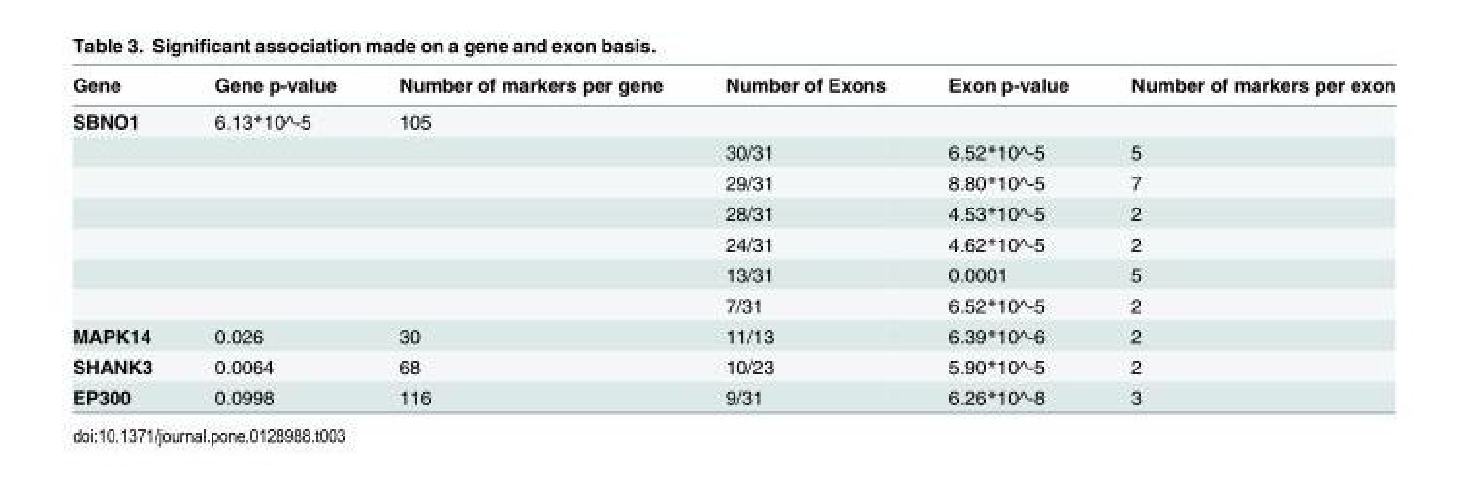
<table><thead><tr><td>Gene</td><td>Gene p-value</td><td>Number of markers per gene</td><td>Number of Exons</td><td>Exon p-value</td><td>Number of markers per exon</td></tr></thead><tbody><tr><td rowspan="7">SBNO1</td><td>6.13*10^-5</td><td>105</td><td></td><td></td><td></td></tr><tr><td></td><td></td><td>30/31</td><td>6.52*10^-5</td><td>5</td></tr><tr><td></td><td></td><td>29/31</td><td>8.80*10^-5</td><td>7</td></tr><tr><td></td><td></td><td>28/31</td><td>4.53*10^-5</td><td>2</td></tr><tr><td></td><td></td><td>24/31</td><td>4.62*10^-5</td><td>2</td></tr><tr><td></td><td></td><td>13/31</td><td>0.0001</td><td>5</td></tr><tr><td></td><td></td><td>7/31</td><td>6.52*10^-5</td><td>2</td></tr><tr><td>MAPK14</td><td>0.026</td><td>30</td><td>11/13</td><td>6.39*10^-6</td><td>2</td></tr><tr><td>SHANK3</td><td>0.0064</td><td>68</td><td>10/23</td><td>5.90*10^-5</td><td>2</td></tr><tr><td>EP300</td><td>0.0998</td><td>116</td><td>9/31</td><td>6.26*10^-8</td><td>3</td></tr></tbody></table>